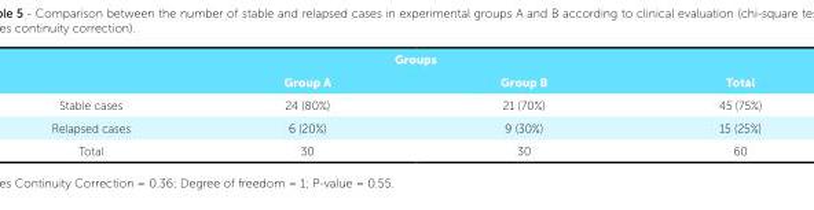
<table><thead><tr><td rowspan="2"></td><td colspan="2">Groups</td><td rowspan="2">Total</td></tr><tr><td>Group A</td><td>Group B</td></tr></thead><tbody><tr><td>Stable cases</td><td>24 (80%)</td><td>21 (70%)</td><td>45 (75%)</td></tr><tr><td>Relapsed cases</td><td>6 (20%)</td><td>9 (30%)</td><td>15 (25%)</td></tr><tr><td>Total</td><td>30</td><td>30</td><td>60</td></tr></tbody></table>